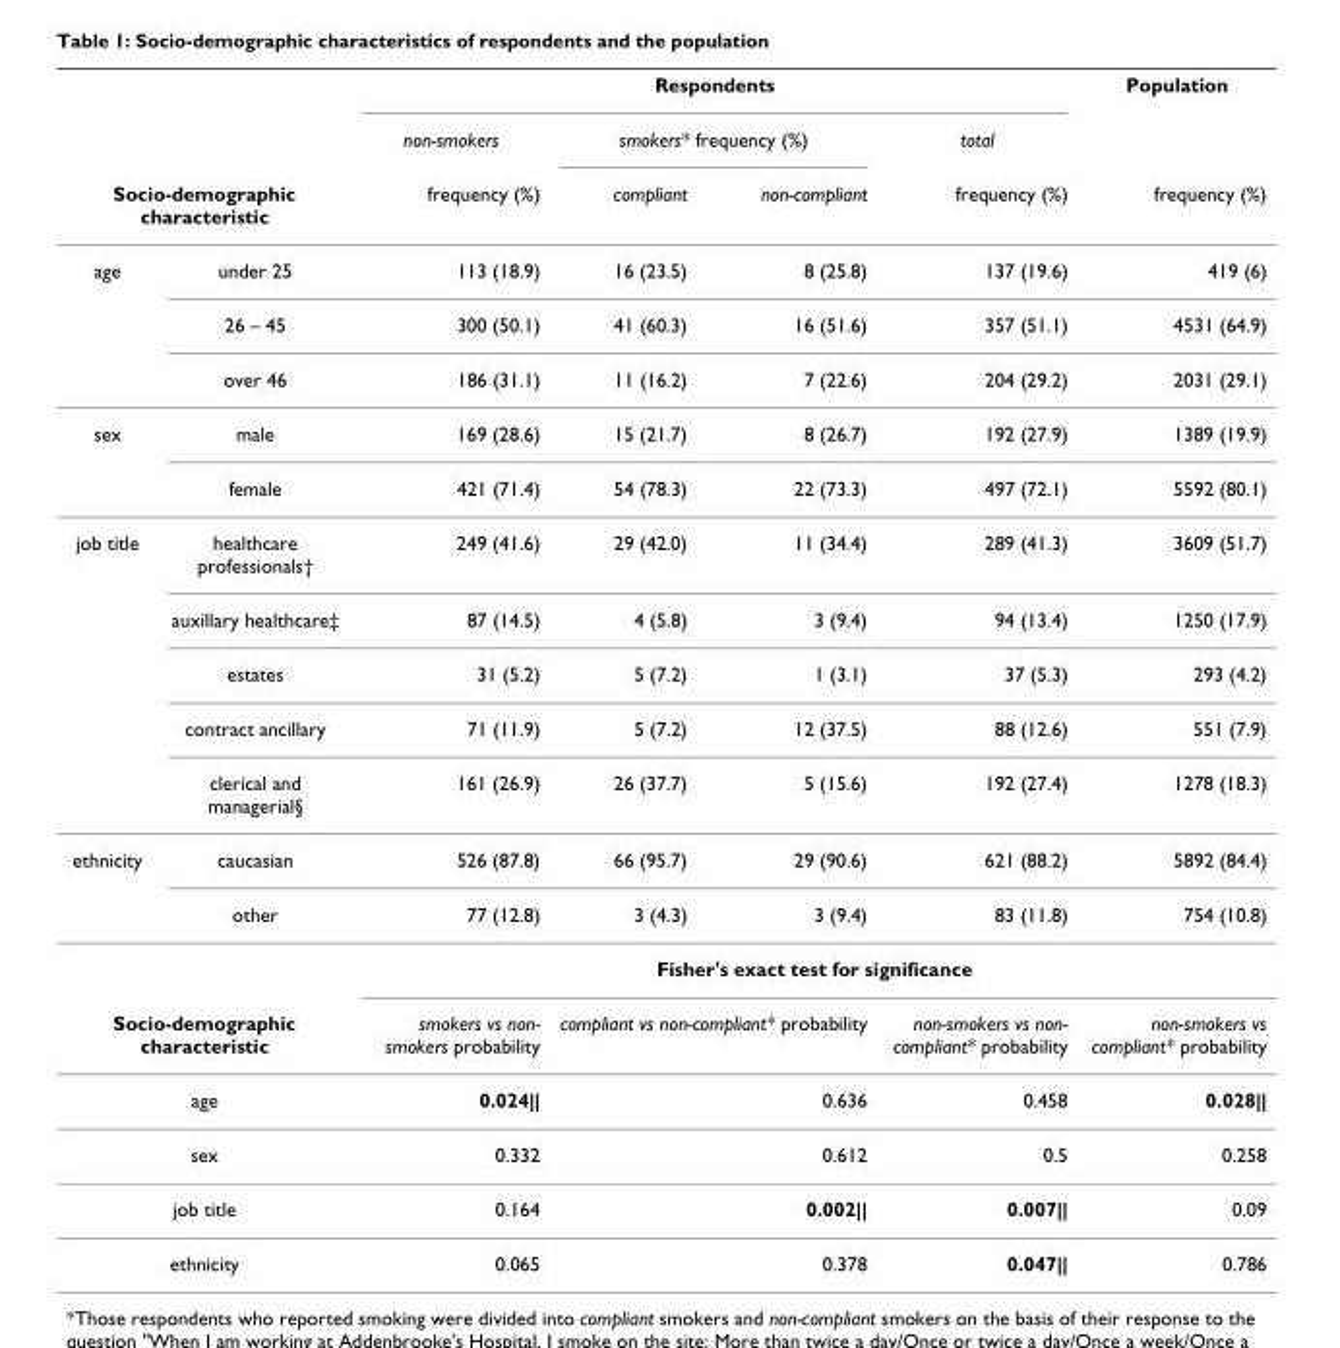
<table><thead><tr><td rowspan="2"></td><td rowspan="2"></td><td colspan="4">Respondents</td><td rowspan="3">Population frequency (%)</td></tr><tr><td rowspan="2">non-smokers frequency (%)</td><td colspan="2">smokers* frequency (%)</td><td rowspan="2">total frequency (%)</td></tr><tr><td colspan="2">Socio-demographic characteristic</td><td>compliant</td><td>non-compliant</td></tr></thead><tbody><tr><td rowspan="3">age</td><td>under 25</td><td>113 (18.9)</td><td>16 (23.5)</td><td>8 (25.8)</td><td>137 (19.6)</td><td>419 (6)</td></tr><tr><td>26 – 45</td><td>300 (50.1)</td><td>41 (60.3)</td><td>16 (51.6)</td><td>357 (51.1)</td><td>4531 (64.9)</td></tr><tr><td>over 46</td><td>186 (31.1)</td><td>11 (16.2)</td><td>7 (22.6)</td><td>204 (29.2)</td><td>2031 (29.1)</td></tr><tr><td rowspan="2">sex</td><td>male</td><td>169 (28.6)</td><td>15 (21.7)</td><td>8 (26.7)</td><td>192 (27.9)</td><td>1389 (19.9)</td></tr><tr><td>female</td><td>421 (71.4)</td><td>54 (78.3)</td><td>22 (73.3)</td><td>497 (72.1)</td><td>5592 (80.1)</td></tr><tr><td rowspan="5">job title</td><td>healthcare professionals†</td><td>249 (41.6)</td><td>29 (42.0)</td><td>11 (34.4)</td><td>289 (41.3)</td><td>3609 (51.7)</td></tr><tr><td>auxillary healthcare‡</td><td>87 (14.5)</td><td>4 (5.8)</td><td>3 (9.4)</td><td>94 (13.4)</td><td>1250 (17.9)</td></tr><tr><td>estates</td><td>31 (5.2)</td><td>5 (7.2)</td><td>1 (3.1)</td><td>37 (5.3)</td><td>293 (4.2)</td></tr><tr><td>contract ancillary</td><td>71 (11.9)</td><td>5 (7.2)</td><td>12 (37.5)</td><td>88 (12.6)</td><td>551 (7.9)</td></tr><tr><td>clerical and managerial§</td><td>161 (26.9)</td><td>26 (37.7)</td><td>5 (15.6)</td><td>192 (27.4)</td><td>1278 (18.3)</td></tr><tr><td rowspan="3">ethnicity</td><td>caucasian</td><td>526 (87.8)</td><td>66 (95.7)</td><td>29 (90.6)</td><td>621 (88.2)</td><td>5892 (84.4)</td></tr><tr><td>other</td><td>77 (12.8)</td><td>3 (4.3)</td><td>3 (9.4)</td><td>83 (11.8)</td><td>754 (10.8)</td></tr><tr><td></td><td colspan="5">Fisher&#x27;s exact test for significance</td></tr><tr><td colspan="2">Socio-demographic characteristic</td><td>smokers vs non- smokers probability</td><td colspan="2">compliant vs non-compliant* probability</td><td>non-smokers vs non- compliant* probability</td><td>non-smokers vs compliant* probability</td></tr><tr><td colspan="2">age</td><td>0.024||</td><td colspan="2">0.636</td><td>0.458</td><td>0.028||</td></tr><tr><td colspan="2">sex</td><td>0.332</td><td colspan="2">0.612</td><td>0.5</td><td>0.258</td></tr><tr><td colspan="2">job title</td><td>0.164</td><td colspan="2">0.002||</td><td>0.007||</td><td>0.09</td></tr><tr><td colspan="2">ethnicity</td><td>0.065</td><td colspan="2">0.378</td><td>0.047||</td><td>0.786</td></tr></tbody></table>